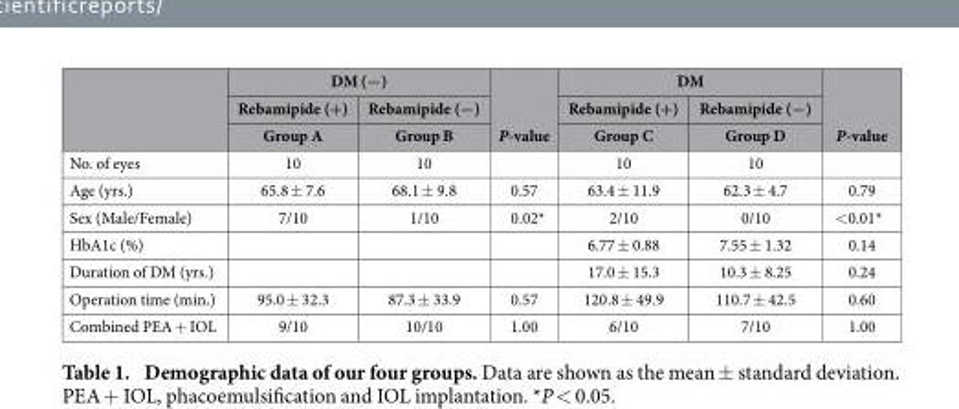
<table><thead><tr><td rowspan="3"></td><td colspan="2">DM (−)</td><td rowspan="3">P-value</td><td colspan="2">DM</td><td rowspan="3">P-value</td></tr><tr><td rowspan="2">Rebamipide (+) Group A</td><td rowspan="2">Rebamipide (−) Group B</td><td rowspan="2">Rebamipide (+) Group C</td><td rowspan="2">Rebamipide (−) Group D</td></tr><tr></tr></thead><tbody><tr><td>No. of eyes</td><td>10</td><td>10</td><td></td><td>10</td><td>10</td><td></td></tr><tr><td>Age (yrs.)</td><td>65.8 ± 7.6</td><td>68.1 ± 9.8</td><td>0.57</td><td>63.4 ± 11.9</td><td>62.3 ± 4.7</td><td>0.79</td></tr><tr><td>Sex (Male/Female)</td><td>7/10</td><td>1/10</td><td>0.02*</td><td>2/10</td><td>0/10</td><td>&lt;0.01*</td></tr><tr><td>HbA1c (%)</td><td></td><td></td><td></td><td>6.77 ± 0.88</td><td>7.55 ± 1.32</td><td>0.14</td></tr><tr><td>Duration of DM (yrs.)</td><td></td><td></td><td></td><td>17.0 ± 15.3</td><td>10.3 ± 8.25</td><td>0.24</td></tr><tr><td>Operation time (min.)</td><td>95.0 ± 32.3</td><td>87.3 ± 33.9</td><td>0.57</td><td>120.8 ± 49.9</td><td>110.7 ± 42.5</td><td>0.60</td></tr><tr><td>Combined PEA + IOL</td><td>9/10</td><td>10/10</td><td>1.00</td><td>6/10</td><td>7/10</td><td>1.00</td></tr></tbody></table>